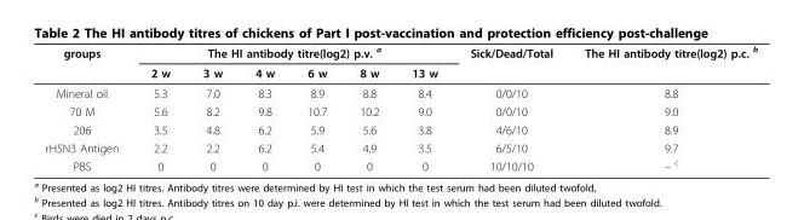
<table><thead><tr><td rowspan="2">groups</td><td colspan="6">The HI antibody titre(log2) p.v. <sup>a</sup></td><td rowspan="2">Sick/Dead/Total</td><td rowspan="2">The HI antibody titre(log2) p.c. <sup>b</sup></td></tr><tr><td>2 w</td><td>3 w</td><td>4 w</td><td>6 w</td><td>8 w</td><td>13 w</td></tr></thead><tbody><tr><td>Mineral oil</td><td>5.3</td><td>7.0</td><td>8.3</td><td>8.9</td><td>8.8</td><td>8.4</td><td>0/0/10</td><td>8.8</td></tr><tr><td>70 M</td><td>5.6</td><td>8.2</td><td>9.8</td><td>10.7</td><td>10.2</td><td>9.0</td><td>0/0/10</td><td>9.0</td></tr><tr><td>206</td><td>3.5</td><td>4.8</td><td>6.2</td><td>5.9</td><td>5.6</td><td>3.8</td><td>4/6/10</td><td>8.9</td></tr><tr><td>rH5N3 Antigen</td><td>2.2</td><td>2.2</td><td>6.2</td><td>5.4</td><td>4.9</td><td>3.5</td><td>6/5/10</td><td>9.7</td></tr><tr><td>PBS</td><td>0</td><td>0</td><td>0</td><td>0</td><td>0</td><td>0</td><td>10/10/10</td><td>– c</td></tr></tbody></table>